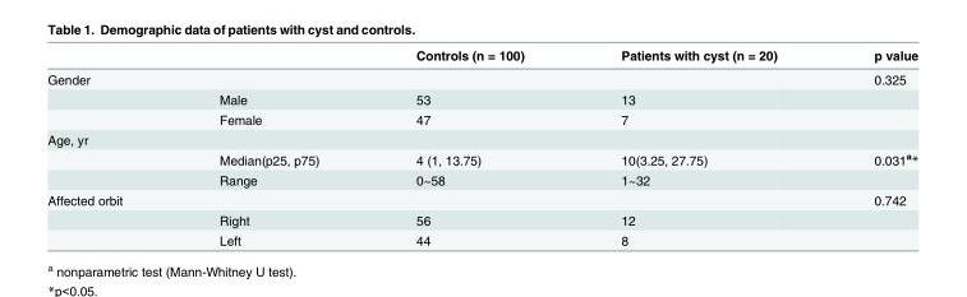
<table><thead><tr><td></td><td></td><td>Controls (n = 100)</td><td>Patients with cyst (n = 20)</td><td>p value</td></tr></thead><tbody><tr><td rowspan="3">Gender</td><td></td><td></td><td></td><td>0.325</td></tr><tr><td>Male</td><td>53</td><td>13</td><td></td></tr><tr><td>Female</td><td>47</td><td>7</td><td></td></tr><tr><td colspan="5">Age, yr</td></tr><tr><td></td><td>Median(p25, p75)</td><td>4 (1, 13.75)</td><td>10(3.25, 27.75)</td><td>0.031<sup>a</sup>*</td></tr><tr><td></td><td>Range</td><td>0~58</td><td>1~32</td><td></td></tr><tr><td rowspan="3">Affected orbit</td><td></td><td></td><td></td><td>0.742</td></tr><tr><td>Right</td><td>56</td><td>12</td><td></td></tr><tr><td>Left</td><td>44</td><td>8</td><td></td></tr></tbody></table>